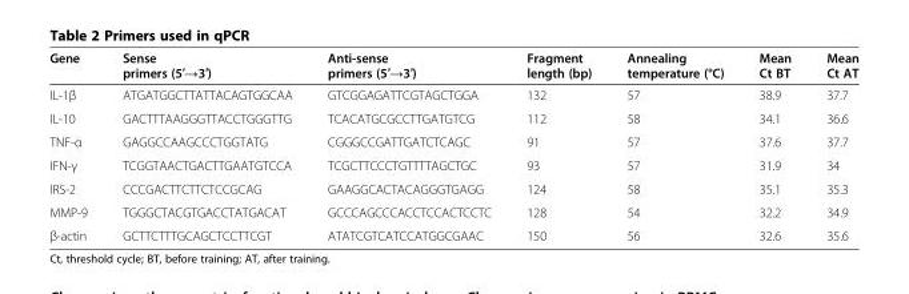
<table><thead><tr><td>Gene</td><td>Sense primers (5′→3′)</td><td>Anti-sense primers (5′→3′)</td><td>Fragment length (bp)</td><td>Annealing temperature (°C)</td><td>Mean Ct BT</td><td>Mean Ct AT</td></tr></thead><tbody><tr><td>IL-1β</td><td>ATGATGGCTTATTACAGTGGCAA</td><td>GTCGGAGATTCGTAGCTGGA</td><td>132</td><td>57</td><td>38.9</td><td>37.7</td></tr><tr><td>IL-10</td><td>GACTTTAAGGGTTACCTGGGTTG</td><td>TCACATGCGCCTTGATGTCG</td><td>112</td><td>58</td><td>34.1</td><td>36.6</td></tr><tr><td>TNF-α</td><td>GAGGCCAAGCCCTGGTATG</td><td>CGGGCCGATTGATCTCAGC</td><td>91</td><td>57</td><td>37.6</td><td>37.7</td></tr><tr><td>IFN-γ</td><td>TCGGTAACTGACTTGAATGTCCA</td><td>TCGCTTCCCTGTTTTAGCTGC</td><td>93</td><td>57</td><td>31.9</td><td>34</td></tr><tr><td>IRS-2</td><td>CCCGACTTCTTCTCCGCAG</td><td>GAAGGCACTACAGGGTGAGG</td><td>124</td><td>58</td><td>35.1</td><td>35.3</td></tr><tr><td>MMP-9</td><td>TGGGCTACGTGACCTATGACAT</td><td>GCCCAGCCCACCTCCACTCCTC</td><td>128</td><td>54</td><td>32.2</td><td>34.9</td></tr><tr><td>β-actin</td><td>GCTTCTTTGCAGCTCCTTCGT</td><td>ATATCGTCATCCATGGCGAAC</td><td>150</td><td>56</td><td>32.6</td><td>35.6</td></tr></tbody></table>